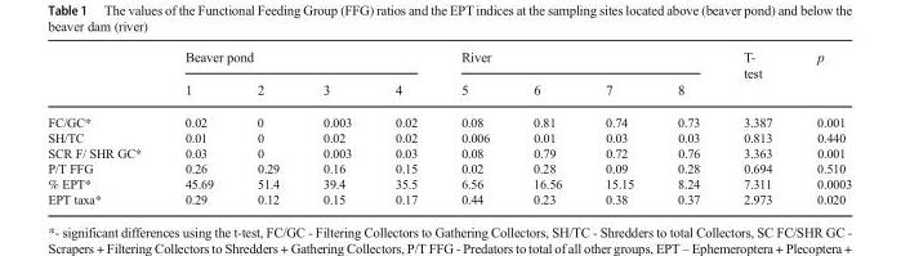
<table><thead><tr><td rowspan="2"></td><td colspan="4">Beaver pond</td><td colspan="4">River</td><td rowspan="2">T- test</td><td rowspan="2">p</td></tr><tr><td>1</td><td>2</td><td>3</td><td>4</td><td>5</td><td>6</td><td>7</td><td>8</td></tr></thead><tbody><tr><td>FC/GC*</td><td>0.02</td><td>0</td><td>0.003</td><td>0.02</td><td>0.08</td><td>0.81</td><td>0.74</td><td>0.73</td><td>3.387</td><td>0.001</td></tr><tr><td>SH/TC</td><td>0.01</td><td>0</td><td>0.02</td><td>0.02</td><td>0.006</td><td>0.01</td><td>0.03</td><td>0.03</td><td>0.813</td><td>0.440</td></tr><tr><td>SCR F/ SHR GC*</td><td>0.03</td><td>0</td><td>0.003</td><td>0.03</td><td>0.08</td><td>0.79</td><td>0.72</td><td>0.76</td><td>3.363</td><td>0.001</td></tr><tr><td>P/T FFG</td><td>0.26</td><td>0.29</td><td>0.16</td><td>0.15</td><td>0.02</td><td>0.28</td><td>0.09</td><td>0.28</td><td>0.694</td><td>0.510</td></tr><tr><td>% EPT*</td><td>45.69</td><td>51.4</td><td>39.4</td><td>35.5</td><td>6.56</td><td>16.56</td><td>15.15</td><td>8.24</td><td>7.311</td><td>0.0003</td></tr><tr><td>EPT taxa*</td><td>0.29</td><td>0.12</td><td>0.15</td><td>0.17</td><td>0.44</td><td>0.23</td><td>0.38</td><td>0.37</td><td>2.973</td><td>0.020</td></tr></tbody></table>